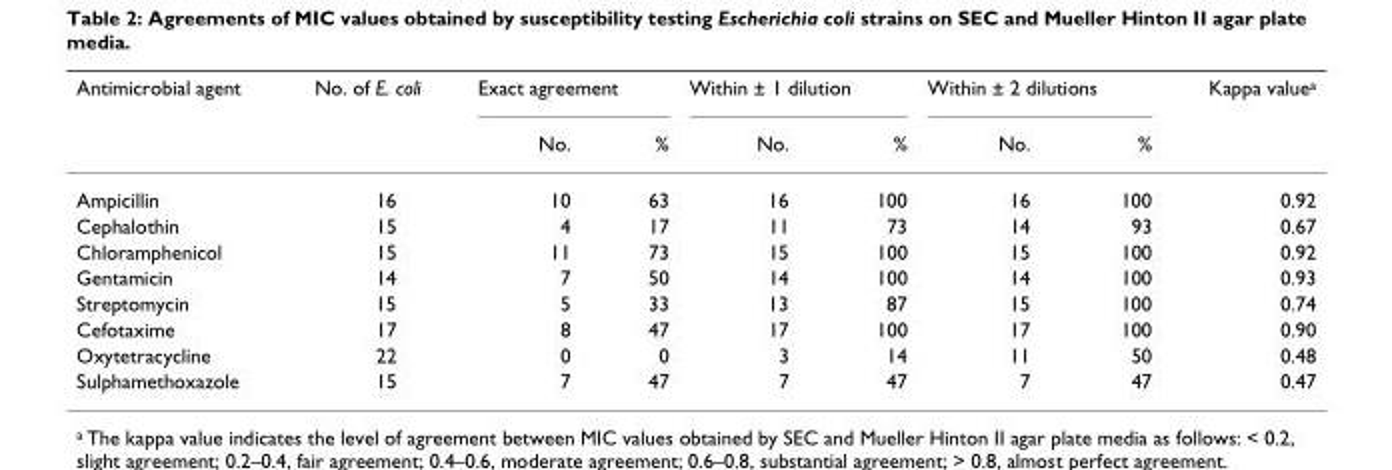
<table><thead><tr><td rowspan="2">Antimicrobial agent</td><td rowspan="2">No. of E. coli</td><td colspan="2">Exact agreement</td><td colspan="2">Within ± 1 dilution</td><td colspan="2">Within ± 2 dilutions</td><td rowspan="2">Kappa value<sup>a</sup></td></tr><tr><td>No.</td><td>%</td><td>No.</td><td>%</td><td>No.</td><td>%</td></tr></thead><tbody><tr><td>Ampicillin</td><td>16</td><td>10</td><td>63</td><td>16</td><td>100</td><td>16</td><td>100</td><td>0.92</td></tr><tr><td>Cephalothin</td><td>15</td><td>4</td><td>17</td><td>11</td><td>73</td><td>14</td><td>93</td><td>0.67</td></tr><tr><td>Chloramphenicol</td><td>15</td><td>11</td><td>73</td><td>15</td><td>100</td><td>15</td><td>100</td><td>0.92</td></tr><tr><td>Gentamicin</td><td>14</td><td>7</td><td>50</td><td>14</td><td>100</td><td>14</td><td>100</td><td>0.93</td></tr><tr><td>Streptomycin</td><td>15</td><td>5</td><td>33</td><td>13</td><td>87</td><td>15</td><td>100</td><td>0.74</td></tr><tr><td>Cefotaxime</td><td>17</td><td>8</td><td>47</td><td>17</td><td>100</td><td>17</td><td>100</td><td>0.90</td></tr><tr><td>Oxytetracycline</td><td>22</td><td>0</td><td>0</td><td>3</td><td>14</td><td>11</td><td>50</td><td>0.48</td></tr><tr><td>Sulphamethoxazole</td><td>15</td><td>7</td><td>47</td><td>7</td><td>47</td><td>7</td><td>47</td><td>0.47</td></tr></tbody></table>